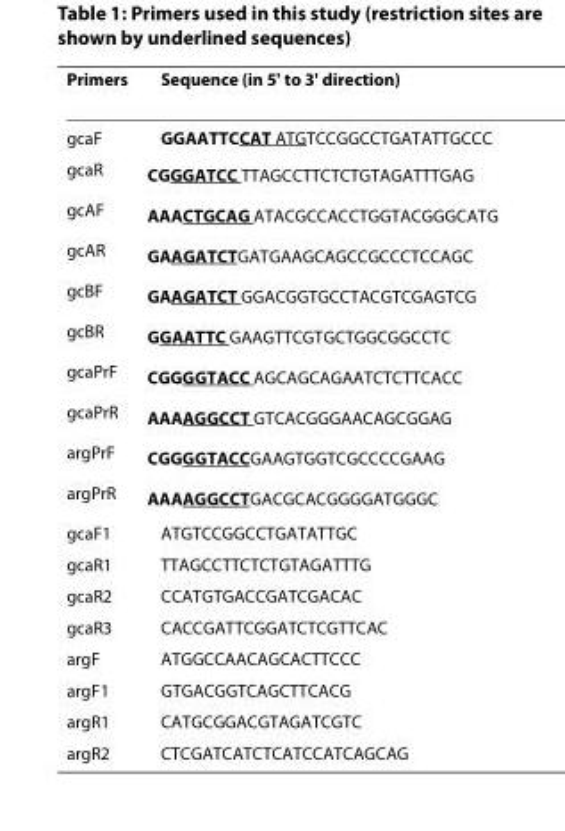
<table><thead><tr><td>Primers</td><td>Sequence (in 5&#x27; to 3&#x27; direction)</td></tr></thead><tbody><tr><td>gcaF</td><td>GGAATTCCAT ATGTCCGGCCTGATATTGCCC</td></tr><tr><td>gcaR</td><td>CGGGATCC TTAGCCTTCTCTGTAGATTTGAG</td></tr><tr><td>gcAF</td><td>AAACTGCAG ATACGCCACCTGGTACGGGCATG</td></tr><tr><td>gcAR</td><td>GAAGATCTGATGAAGCAGCCGCCCTCCAGC</td></tr><tr><td>gcBF</td><td>GAAGATCT GGACGGTGCCTACGTCGAGTCG</td></tr><tr><td>gcBR</td><td>GGAATTC GAAGTTCGTGCTGGCGGCCTC</td></tr><tr><td>gcaPrF</td><td>CGGGGTACC AGCAGCAGAATCTCTTCACC</td></tr><tr><td>gcaPrR</td><td>AAAAGGCCT GTCACGGGAACAGCGGAG</td></tr><tr><td>argPrF</td><td>CGGGGTACCGAAGTGGTCGCCCCGAAG</td></tr><tr><td>argPrR</td><td>AAAAGGCCTGACGCACGGGGATGGGC</td></tr><tr><td>gcaF1</td><td>ATGTCCGGCCTGATATTGC</td></tr><tr><td>gcaR1</td><td>TTAGCCTTCTCTGTAGATTTG</td></tr><tr><td>gcaR2</td><td>CCATGTGACCGATCGACAC</td></tr><tr><td>gcaR3</td><td>CACCGATTCGGATCTCGTTCAC</td></tr><tr><td>argF</td><td>ATGGCCAACAGCACTTCCC</td></tr><tr><td>argF1</td><td>GTGACGGTCAGCTTCACG</td></tr><tr><td>argR1</td><td>CATGCGGACGTAGATCGTC</td></tr><tr><td>argR2</td><td>CTCGATCATCTCATCCATCAGCAG</td></tr></tbody></table>